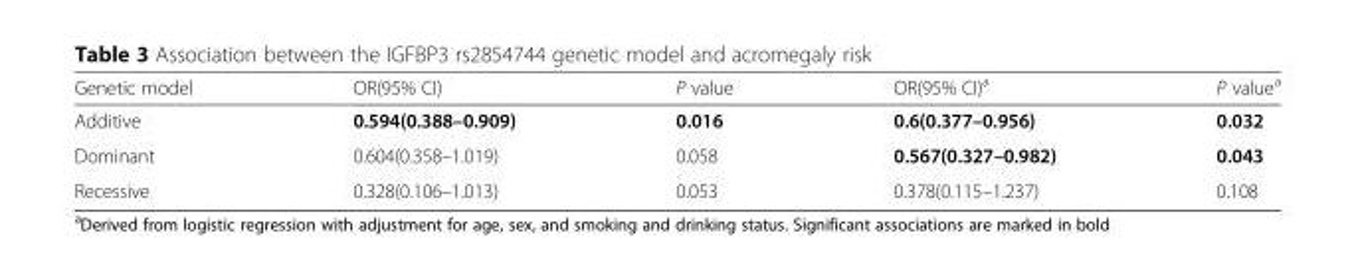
<table><thead><tr><td>Genetic model</td><td>OR(95% CI)</td><td>P value</td><td>OR(95% CI)<sup>a</sup></td><td>P value<sup>a</sup></td></tr></thead><tbody><tr><td>Additive</td><td>0.594(0.388–0.909)</td><td>0.016</td><td>0.6(0.377–0.956)</td><td>0.032</td></tr><tr><td>Dominant</td><td>0.604(0.358–1.019)</td><td>0.058</td><td>0.567(0.327–0.982)</td><td>0.043</td></tr><tr><td>Recessive</td><td>0.328(0.106–1.013)</td><td>0.053</td><td>0.378(0.115–1.237)</td><td>0.108</td></tr></tbody></table>